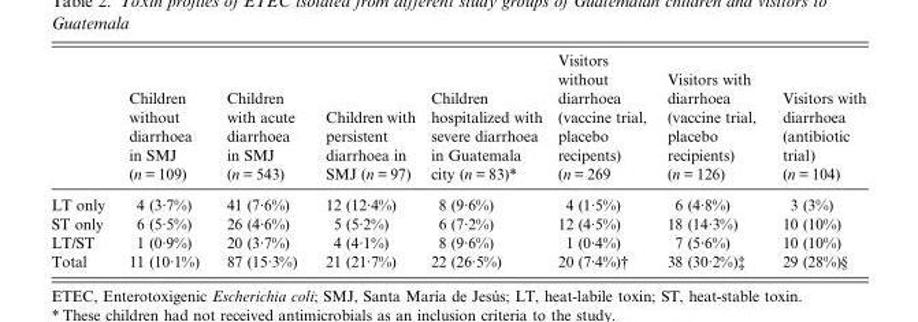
<table><thead><tr><td></td><td>Children without diarrhoea in SMJ (n = 109)</td><td>Children with acute diarrhoea in SMJ (n = 543)</td><td>Children with persistent diarrhoea in SMJ (n = 97)</td><td>Children hospitalized with severe diarrhoea in Guatemala city (n = 83)*</td><td>Visitors without diarrhoea (vaccine trial, placebo recipents) (n = 269</td><td>Visitors with diarrhoea (vaccine trial, placebo recipients) (n = 126)</td><td>Visitors with diarrhoea (antibiotic trial) (n = 104)</td></tr></thead><tbody><tr><td>LT only</td><td>4 (3·7%)</td><td>41 (7·6%)</td><td>12 (12·4%)</td><td>8 (9·6%)</td><td>4 (1·5%)</td><td>6 (4·8%)</td><td>3 (3%)</td></tr><tr><td>ST only</td><td>6 (5·5%)</td><td>26 (4·6%)</td><td>5 (5·2%)</td><td>6 (7·2%)</td><td>12 (4·5%)</td><td>18 (14·3%)</td><td>10 (10%)</td></tr><tr><td>LT/ST</td><td>1 (0·9%)</td><td>20 (3·7%)</td><td>4 (4·1%)</td><td>8 (9·6%)</td><td>1 (0·4%)</td><td>7 (5·6%)</td><td>10 (10%)</td></tr><tr><td>Total</td><td>11 (10·1%)</td><td>87 (15·3%)</td><td>21 (21·7%)</td><td>22 (26·5%)</td><td>20 (7·4%)†</td><td>38 (30·2%)‡</td><td>29 (28%)§</td></tr></tbody></table>